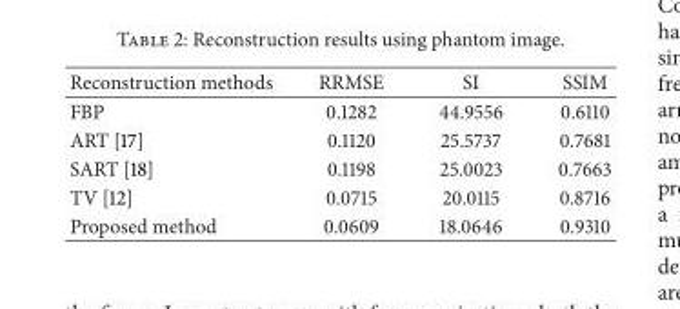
<table><thead><tr><td>Reconstruction methods</td><td>RRMSE</td><td>SI</td><td>SSIM</td></tr></thead><tbody><tr><td>FBP</td><td>0.1282</td><td>44.9556</td><td>0.6110</td></tr><tr><td>ART [17]</td><td>0.1120</td><td>25.5737</td><td>0.7681</td></tr><tr><td>SART [18]</td><td>0.1198</td><td>25.0023</td><td>0.7663</td></tr><tr><td>TV [12]</td><td>0.0715</td><td>20.0115</td><td>0.8716</td></tr><tr><td>Proposed method</td><td>0.0609</td><td>18.0646</td><td>0.9310</td></tr></tbody></table>